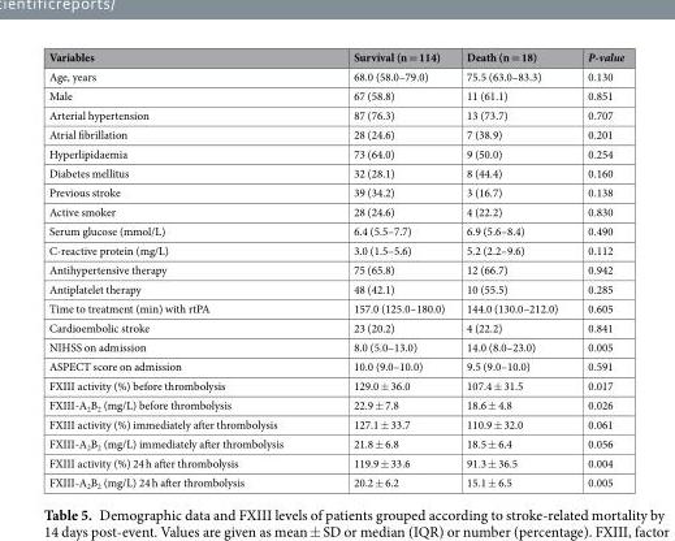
<table><thead><tr><td>Variables</td><td>Survival (n = 114)</td><td>Death (n = 18)</td><td>P-value</td></tr></thead><tbody><tr><td>Age, years</td><td>68.0 (58.0–79.0)</td><td>75.5 (63.0–83.3)</td><td>0.130</td></tr><tr><td>Male</td><td>67 (58.8)</td><td>11 (61.1)</td><td>0.851</td></tr><tr><td>Arterial hypertension</td><td>87 (76.3)</td><td>13 (73.7)</td><td>0.707</td></tr><tr><td>Atrial fibrillation</td><td>28 (24.6)</td><td>7 (38.9)</td><td>0.201</td></tr><tr><td>Hyperlipidaemia</td><td>73 (64.0)</td><td>9 (50.0)</td><td>0.254</td></tr><tr><td>Diabetes mellitus</td><td>32 (28.1)</td><td>8 (44.4)</td><td>0.160</td></tr><tr><td>Previous stroke</td><td>39 (34.2)</td><td>3 (16.7)</td><td>0.138</td></tr><tr><td>Active smoker</td><td>28 (24.6)</td><td>4 (22.2)</td><td>0.830</td></tr><tr><td>Serum glucose (mmol/L)</td><td>6.4 (5.5–7.7)</td><td>6.9 (5.6–8.4)</td><td>0.490</td></tr><tr><td>C-reactive protein (mg/L)</td><td>3.0 (1.5–5.6)</td><td>5.2 (2.2–9.6)</td><td>0.112</td></tr><tr><td>Antihypertensive therapy</td><td>75 (65.8)</td><td>12 (66.7)</td><td>0.942</td></tr><tr><td>Antiplatelet therapy</td><td>48 (42.1)</td><td>10 (55.5)</td><td>0.285</td></tr><tr><td>Time to treatment (min) with rtPA</td><td>157.0 (125.0–180.0)</td><td>144.0 (130.0–212.0)</td><td>0.605</td></tr><tr><td>Cardioembolic stroke</td><td>23 (20.2)</td><td>4 (22.2)</td><td>0.841</td></tr><tr><td>NIHSS on admission</td><td>8.0 (5.0–13.0)</td><td>14.0 (8.0–23.0)</td><td>0.005</td></tr><tr><td>ASPECT score on admission</td><td>10.0 (9.0–10.0)</td><td>9.5 (9.0–10.0)</td><td>0.591</td></tr><tr><td>FXIII activity (%) before thrombolysis</td><td>129.0 ± 36.0</td><td>107.4 ± 31.5</td><td>0.017</td></tr><tr><td>FXIII-A<sub>2</sub>B<sub>2</sub> (mg/L) before thrombolysis</td><td>22.9 ± 7.8</td><td>18.6 ± 4.8</td><td>0.026</td></tr><tr><td>FXIII activity (%) immediately after thrombolysis</td><td>127.1 ± 33.7</td><td>110.9 ± 32.0</td><td>0.061</td></tr><tr><td>FXIII-A<sub>2</sub>B<sub>2</sub> (mg/L) immediately after thrombolysis</td><td>21.8 ± 6.8</td><td>18.5 ± 6.4</td><td>0.056</td></tr><tr><td>FXIII activity (%) 24 h after thrombolysis</td><td>119.9 ± 33.6</td><td>91.3 ± 36.5</td><td>0.004</td></tr><tr><td>FXIII-A<sub>2</sub>B<sub>2</sub> (mg/L) 24 h after thrombolysis</td><td>20.2 ± 6.2</td><td>15.1 ± 6.5</td><td>0.005</td></tr></tbody></table>